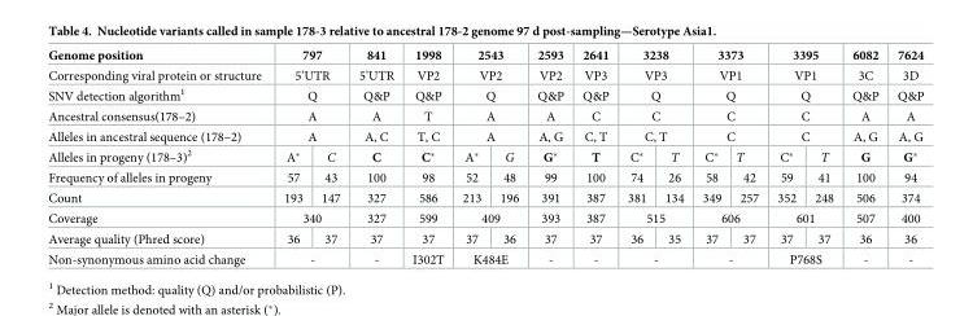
<table><tbody><tr><td>Genome position</td><td colspan="2">797</td><td>841</td><td>1998</td><td colspan="2">2543</td><td>2593</td><td>2641</td><td colspan="2">3238</td><td colspan="2">3373</td><td colspan="2">3395</td><td>6082</td><td>7624</td></tr><tr><td>Corresponding viral protein or structure</td><td colspan="2">5’UTR</td><td>5’UTR</td><td>VP2</td><td colspan="2">VP2</td><td>VP2</td><td>VP3</td><td colspan="2">VP3</td><td colspan="2">VP1</td><td colspan="2">VP1</td><td>3C</td><td>3D</td></tr><tr><td>SNV detection algorithm<sup>1</sup></td><td colspan="2">Q</td><td>Q&amp;P</td><td>Q&amp;P</td><td colspan="2">Q</td><td>Q&amp;P</td><td>Q&amp;P</td><td colspan="2">Q</td><td colspan="2">Q</td><td colspan="2">Q</td><td>Q&amp;P</td><td>Q&amp;P</td></tr><tr><td>Ancestral consensus(178–2)</td><td colspan="2">A</td><td>A</td><td>T</td><td colspan="2">A</td><td>A</td><td>C</td><td colspan="2">C</td><td colspan="2">C</td><td colspan="2">C</td><td>A</td><td>A</td></tr><tr><td>Alleles in ancestral sequence (178–2)</td><td colspan="2">A</td><td>A, C</td><td>T, C</td><td colspan="2">A</td><td>A, G</td><td>C, T</td><td colspan="2">C, T</td><td colspan="2">C</td><td colspan="2">C</td><td>A, G</td><td>A, G</td></tr><tr><td>Alleles in progeny (178–3)<sup>2</sup></td><td>A*</td><td>C</td><td>C</td><td>C*</td><td>A*</td><td>G</td><td>G*</td><td>T</td><td>C*</td><td>T</td><td>C*</td><td>T</td><td>C*</td><td>T</td><td>G</td><td>G*</td></tr><tr><td>Frequency of alleles in progeny</td><td>57</td><td>43</td><td>100</td><td>98</td><td>52</td><td>48</td><td>99</td><td>100</td><td>74</td><td>26</td><td>58</td><td>42</td><td>59</td><td>41</td><td>100</td><td>94</td></tr><tr><td>Count</td><td>193</td><td>147</td><td>327</td><td>586</td><td>213</td><td>196</td><td>391</td><td>387</td><td>381</td><td>134</td><td>349</td><td>257</td><td>352</td><td>248</td><td>506</td><td>374</td></tr><tr><td>Coverage</td><td colspan="2">340</td><td>327</td><td>599</td><td colspan="2">409</td><td>393</td><td>387</td><td colspan="2">515</td><td colspan="2">606</td><td colspan="2">601</td><td>507</td><td>400</td></tr><tr><td>Average quality (Phred score)</td><td>36</td><td>37</td><td>37</td><td>37</td><td>37</td><td>36</td><td>37</td><td>37</td><td>36</td><td>35</td><td>37</td><td>37</td><td>37</td><td>37</td><td>36</td><td>36</td></tr><tr><td>Non-synonymous amino acid change</td><td colspan="2">-</td><td>-</td><td>I302T</td><td colspan="2">K484E</td><td>-</td><td>-</td><td colspan="2">-</td><td colspan="2">-</td><td colspan="2">P768S</td><td>-</td><td>-</td></tr></tbody></table>